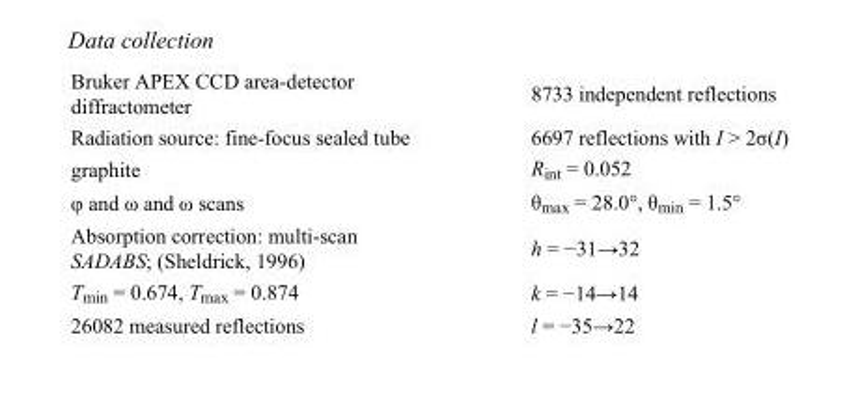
<table><tbody><tr><td>Bruker APEX CCD area-detector diffractometer</td><td>8733 independent reflections</td></tr><tr><td>Radiation source: fine-focus sealed tube</td><td>6697 reflections with I &gt; 2σ(I)</td></tr><tr><td>graphite</td><td>R<sub>int</sub> = 0.052</td></tr><tr><td>φ and ω and ω scans</td><td>θ<sub>max</sub> = 28.0°, θ<sub>min</sub> = 1.5°</td></tr><tr><td>Absorption correction: multi-scan SADABS; (Sheldrick, 1996)</td><td>h = −31→32</td></tr><tr><td>T<sub>min</sub> = 0.674, T<sub>max</sub> = 0.874</td><td>k = −14→14</td></tr><tr><td>26082 measured reflections</td><td>l = −35→22</td></tr></tbody></table>